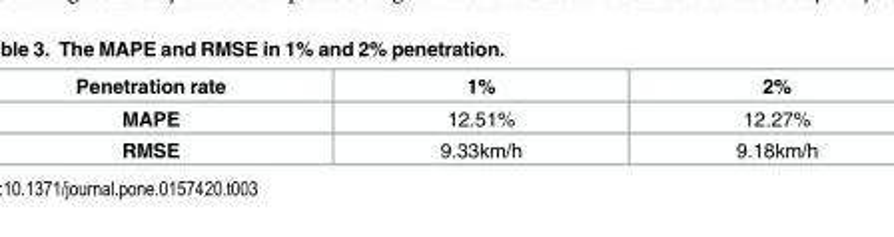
<table><thead><tr><td>Penetration rate</td><td>1%</td><td>2%</td></tr></thead><tbody><tr><td>MAPE</td><td>12.51%</td><td>12.27%</td></tr><tr><td>RMSE</td><td>9.33km/h</td><td>9.18km/h</td></tr></tbody></table>